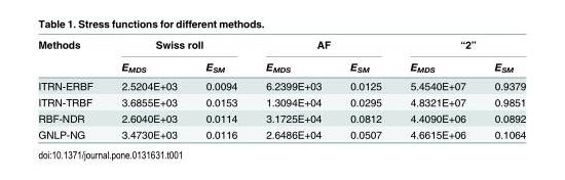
<table><thead><tr><td rowspan="2">Methods</td><td colspan="2">Swiss roll</td><td colspan="2">AF</td><td colspan="2">“2”</td></tr><tr><td>E<sub>MDS</sub></td><td>E<sub>SM</sub></td><td>E<sub>MDS</sub></td><td>E<sub>SM</sub></td><td>E<sub>MDS</sub></td><td>E<sub>SM</sub></td></tr></thead><tbody><tr><td>ITRN-ERBF</td><td>2.5204E+03</td><td>0.0094</td><td>6.2399E+03</td><td>0.0125</td><td>5.4540E+07</td><td>0.9379</td></tr><tr><td>ITRN-TRBF</td><td>3.6855E+03</td><td>0.0153</td><td>1.3094E+04</td><td>0.0295</td><td>4.8321E+07</td><td>0.9851</td></tr><tr><td>RBF-NDR</td><td>2.6040E+03</td><td>0.0114</td><td>3.1725E+04</td><td>0.0812</td><td>4.4090E+06</td><td>0.0892</td></tr><tr><td>GNLP-NG</td><td>3.4730E+03</td><td>0.0116</td><td>2.6486E+04</td><td>0.0507</td><td>4.6615E+06</td><td>0.1064</td></tr></tbody></table>